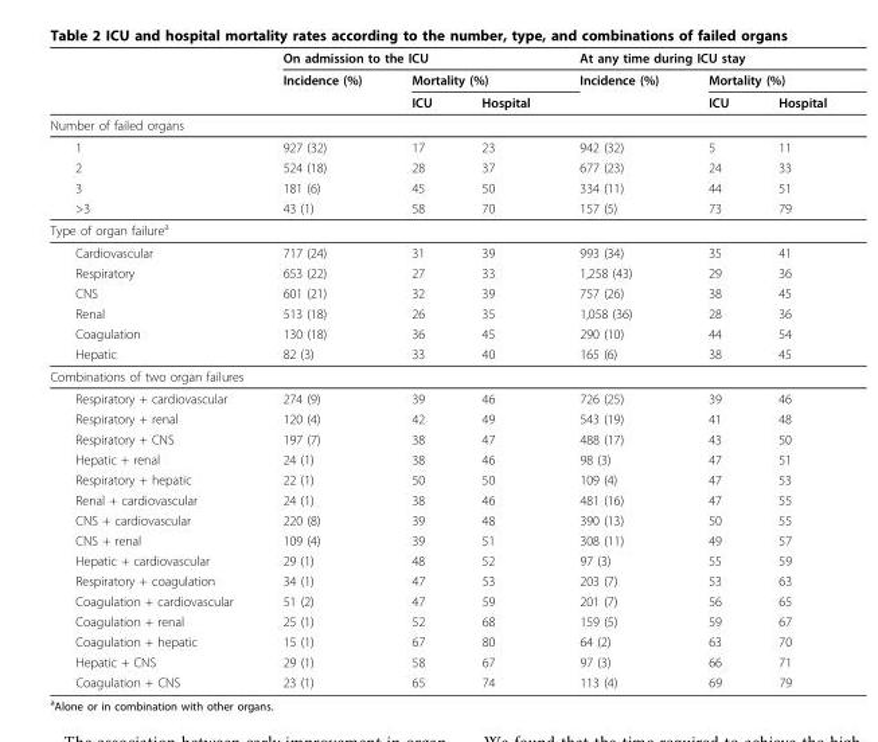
<table><thead><tr><td rowspan="3"></td><td colspan="3">On admission to the ICU</td><td colspan="3">At any time during ICU stay</td></tr><tr><td rowspan="2">Incidence (%)</td><td colspan="2">Mortality (%)</td><td rowspan="2">Incidence (%)</td><td colspan="2">Mortality (%)</td></tr><tr><td>ICU</td><td>Hospital</td><td>ICU</td><td>Hospital</td></tr></thead><tbody><tr><td colspan="7">Number of failed organs</td></tr><tr><td>1</td><td>927 (32)</td><td>17</td><td>23</td><td>942 (32)</td><td>5</td><td>11</td></tr><tr><td>2</td><td>524 (18)</td><td>28</td><td>37</td><td>677 (23)</td><td>24</td><td>33</td></tr><tr><td>3</td><td>181 (6)</td><td>45</td><td>50</td><td>334 (11)</td><td>44</td><td>51</td></tr><tr><td>&gt;3</td><td>43 (1)</td><td>58</td><td>70</td><td>157 (5)</td><td>73</td><td>79</td></tr><tr><td colspan="7">Type of organ failure<sup>a</sup></td></tr><tr><td>Cardiovascular</td><td>717 (24)</td><td>31</td><td>39</td><td>993 (34)</td><td>35</td><td>41</td></tr><tr><td>Respiratory</td><td>653 (22)</td><td>27</td><td>33</td><td>1,258 (43)</td><td>29</td><td>36</td></tr><tr><td>CNS</td><td>601 (21)</td><td>32</td><td>39</td><td>757 (26)</td><td>38</td><td>45</td></tr><tr><td>Renal</td><td>513 (18)</td><td>26</td><td>35</td><td>1,058 (36)</td><td>28</td><td>36</td></tr><tr><td>Coagulation</td><td>130 (18)</td><td>36</td><td>45</td><td>290 (10)</td><td>44</td><td>54</td></tr><tr><td>Hepatic</td><td>82 (3)</td><td>33</td><td>40</td><td>165 (6)</td><td>38</td><td>45</td></tr><tr><td colspan="7">Combinations of two organ failures</td></tr><tr><td>Respiratory + cardiovascular</td><td>274 (9)</td><td>39</td><td>46</td><td>726 (25)</td><td>39</td><td>46</td></tr><tr><td>Respiratory + renal</td><td>120 (4)</td><td>42</td><td>49</td><td>543 (19)</td><td>41</td><td>48</td></tr><tr><td>Respiratory + CNS</td><td>197 (7)</td><td>38</td><td>47</td><td>488 (17)</td><td>43</td><td>50</td></tr><tr><td>Hepatic + renal</td><td>24 (1)</td><td>38</td><td>46</td><td>98 (3)</td><td>47</td><td>51</td></tr><tr><td>Respiratory + hepatic</td><td>22 (1)</td><td>50</td><td>50</td><td>109 (4)</td><td>47</td><td>53</td></tr><tr><td>Renal + cardiovascular</td><td>24 (1)</td><td>38</td><td>46</td><td>481 (16)</td><td>47</td><td>55</td></tr><tr><td>CNS + cardiovascular</td><td>220 (8)</td><td>39</td><td>48</td><td>390 (13)</td><td>50</td><td>55</td></tr><tr><td>CNS + renal</td><td>109 (4)</td><td>39</td><td>51</td><td>308 (11)</td><td>49</td><td>57</td></tr><tr><td>Hepatic + cardiovascular</td><td>29 (1)</td><td>48</td><td>52</td><td>97 (3)</td><td>55</td><td>59</td></tr><tr><td>Respiratory + coagulation</td><td>34 (1)</td><td>47</td><td>53</td><td>203 (7)</td><td>53</td><td>63</td></tr><tr><td>Coagulation + cardiovascular</td><td>51 (2)</td><td>47</td><td>59</td><td>201 (7)</td><td>56</td><td>65</td></tr><tr><td>Coagulation + renal</td><td>25 (1)</td><td>52</td><td>68</td><td>159 (5)</td><td>59</td><td>67</td></tr><tr><td>Coagulation + hepatic</td><td>15 (1)</td><td>67</td><td>80</td><td>64 (2)</td><td>63</td><td>70</td></tr><tr><td>Hepatic + CNS</td><td>29 (1)</td><td>58</td><td>67</td><td>97 (3)</td><td>66</td><td>71</td></tr><tr><td>Coagulation + CNS</td><td>23 (1)</td><td>65</td><td>74</td><td>113 (4)</td><td>69</td><td>79</td></tr></tbody></table>